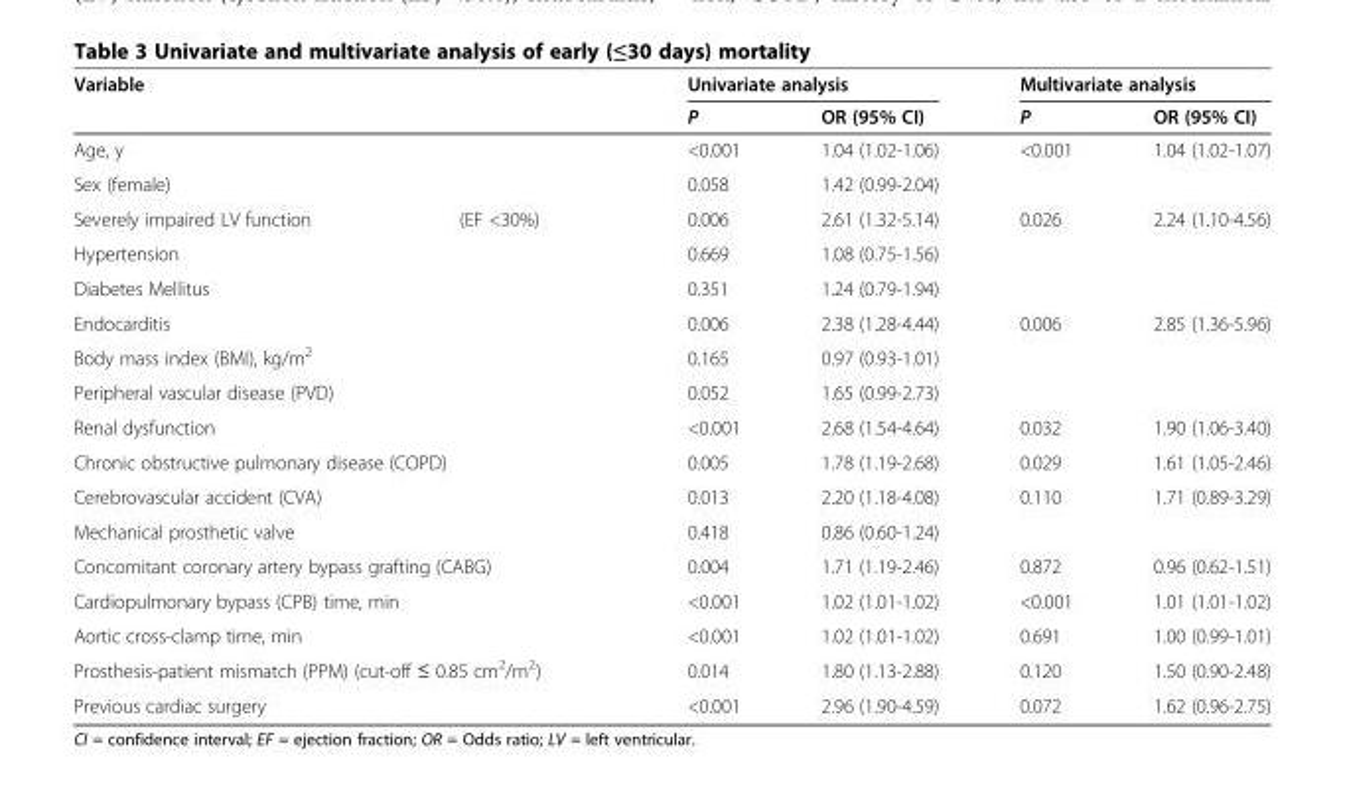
<table><thead><tr><td rowspan="4" colspan="2">Variable Age, y Sex (female)</td><td colspan="2">Univariate analysis</td><td colspan="2">Multivariate analysis</td></tr><tr><td rowspan="4">P &lt;0.001 0.058 0.006</td><td rowspan="4">OR (95% CI) 1.04 (1.02-1.06) 1.42 (0.99-2.04) 2.61 (1.32-5.14)</td><td rowspan="4">P &lt;0.001 0.026</td><td rowspan="4">OR (95% CI) 1.04 (1.02-1.07) 2.24 (1.10-4.56)</td></tr><tr></tr><tr></tr><tr><td>Severely impaired LV function</td><td>(EF &lt;30%)</td></tr></thead><tbody><tr><td colspan="2">Hypertension</td><td>0.669</td><td>1.08 (0.75-1.56)</td><td></td><td></td></tr><tr><td colspan="2">Diabetes Mellitus</td><td>0.351</td><td>1.24 (0.79-1.94)</td><td></td><td></td></tr><tr><td colspan="2">Endocarditis</td><td>0.006</td><td>2.38 (1.28-4.44)</td><td>0.006</td><td>2.85 (1.36-5.96)</td></tr><tr><td colspan="2">Body mass index (BMI), kg/m<sup>2</sup></td><td>0.165</td><td>0.97 (0.93-1.01)</td><td></td><td></td></tr><tr><td colspan="2">Peripheral vascular disease (PVD)</td><td>0.052</td><td>1.65 (0.99-2.73)</td><td></td><td></td></tr><tr><td colspan="2">Renal dysfunction</td><td>&lt;0.001</td><td>2.68 (1.54-4.64)</td><td>0.032</td><td>1.90 (1.06-3.40)</td></tr><tr><td colspan="2">Chronic obstructive pulmonary disease (COPD)</td><td>0.005</td><td>1.78 (1.19-2.68)</td><td>0.029</td><td>1.61 (1.05-2.46)</td></tr><tr><td colspan="2">Cerebrovascular accident (CVA)</td><td>0.013</td><td>2.20 (1.18-4.08)</td><td>0.110</td><td>1.71 (0.89-3.29)</td></tr><tr><td colspan="2">Mechanical prosthetic valve</td><td>0.418</td><td>0.86 (0.60-1.24)</td><td></td><td></td></tr><tr><td colspan="2">Concomitant coronary artery bypass grafting (CABG)</td><td>0.004</td><td>1.71 (1.19-2.46)</td><td>0.872</td><td>0.96 (0.62-1.51)</td></tr><tr><td colspan="2">Cardiopulmonary bypass (CPB) time, min</td><td>&lt;0.001</td><td>1.02 (1.01-1.02)</td><td>&lt;0.001</td><td>1.01 (1.01-1.02)</td></tr><tr><td colspan="2">Aortic cross-clamp time, min</td><td>&lt;0.001</td><td>1.02 (1.01-1.02)</td><td>0.691</td><td>1.00 (0.99-1.01)</td></tr><tr><td colspan="2">Prosthesis-patient mismatch (PPM) (cut-off ≤ 0.85 cm<sup>2</sup>/m<sup>2</sup>)</td><td>0.014</td><td>1.80 (1.13-2.88)</td><td>0.120</td><td>1.50 (0.90-2.48)</td></tr><tr><td colspan="2">Previous cardiac surgery</td><td>&lt;0.001</td><td>2.96 (1.90-4.59)</td><td>0.072</td><td>1.62 (0.96-2.75)</td></tr></tbody></table>